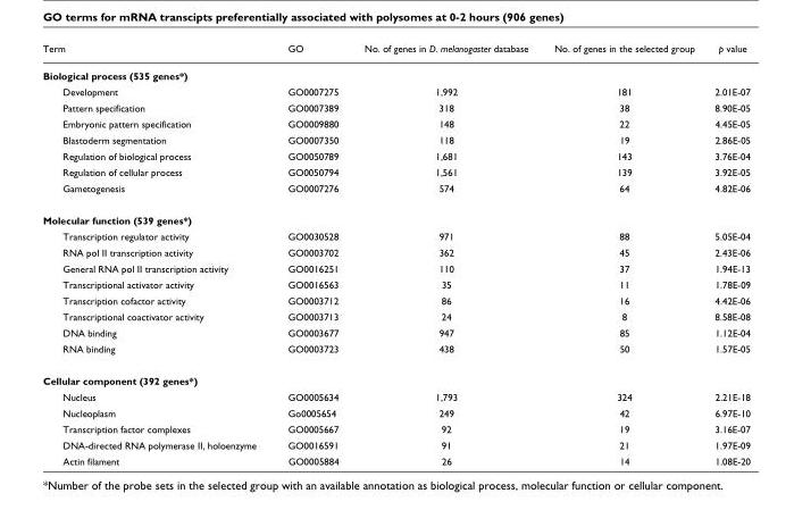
<table><thead><tr><td>Term</td><td>GO</td><td>No. of genes in D. melanogaster database</td><td>No. of genes in the selected group</td><td>p value</td></tr></thead><tbody><tr><td colspan="5">Biological process (535 genes*)</td></tr><tr><td>Development</td><td>GO0007275</td><td>1,992</td><td>181</td><td>2.01E-07</td></tr><tr><td>Pattern specification</td><td>GO0007389</td><td>318</td><td>38</td><td>8.90E-05</td></tr><tr><td>Embryonic pattern specification</td><td>GO0009880</td><td>148</td><td>22</td><td>4.45E-05</td></tr><tr><td>Blastoderm segmentation</td><td>GO0007350</td><td>118</td><td>19</td><td>2.86E-05</td></tr><tr><td>Regulation of biological process</td><td>GO0050789</td><td>1,681</td><td>143</td><td>3.76E-04</td></tr><tr><td>Regulation of cellular process</td><td>GO0050794</td><td>1,561</td><td>139</td><td>3.92E-05</td></tr><tr><td>Gametogenesis</td><td>GO0007276</td><td>574</td><td>64</td><td>4.82E-06</td></tr><tr><td colspan="5">Molecular function (539 genes*)</td></tr><tr><td>Transcription regulator activity</td><td>GO0030528</td><td>971</td><td>88</td><td>5.05E-04</td></tr><tr><td>RNA pol II transcription activity</td><td>GO0003702</td><td>362</td><td>45</td><td>2.43E-06</td></tr><tr><td>General RNA pol II transcription activity</td><td>GO0016251</td><td>110</td><td>37</td><td>1.94E-13</td></tr><tr><td>Transcriptional activator activity</td><td>GO0016563</td><td>35</td><td>11</td><td>1.78E-09</td></tr><tr><td>Transcription cofactor activity</td><td>GO0003712</td><td>86</td><td>16</td><td>4.42E-06</td></tr><tr><td>Transcriptional coactivator activity</td><td>GO0003713</td><td>24</td><td>8</td><td>8.58E-08</td></tr><tr><td>DNA binding</td><td>GO0003677</td><td>947</td><td>85</td><td>1.12E-04</td></tr><tr><td>RNA binding</td><td>GO0003723</td><td>438</td><td>50</td><td>1.57E-05</td></tr><tr><td colspan="5">Cellular component (392 genes*)</td></tr><tr><td>Nucleus</td><td>GO0005634</td><td>1,793</td><td>324</td><td>2.21E-18</td></tr><tr><td>Nucleoplasm</td><td>Go0005654</td><td>249</td><td>42</td><td>6.97E-10</td></tr><tr><td>Transcription factor complexes</td><td>GO0005667</td><td>92</td><td>19</td><td>3.16E-07</td></tr><tr><td>DNA-directed RNA polymerase II, holoenzyme</td><td>GO0016591</td><td>91</td><td>21</td><td>1.97E-09</td></tr><tr><td>Actin filament</td><td>GO0005884</td><td>26</td><td>14</td><td>1.08E-20</td></tr></tbody></table>